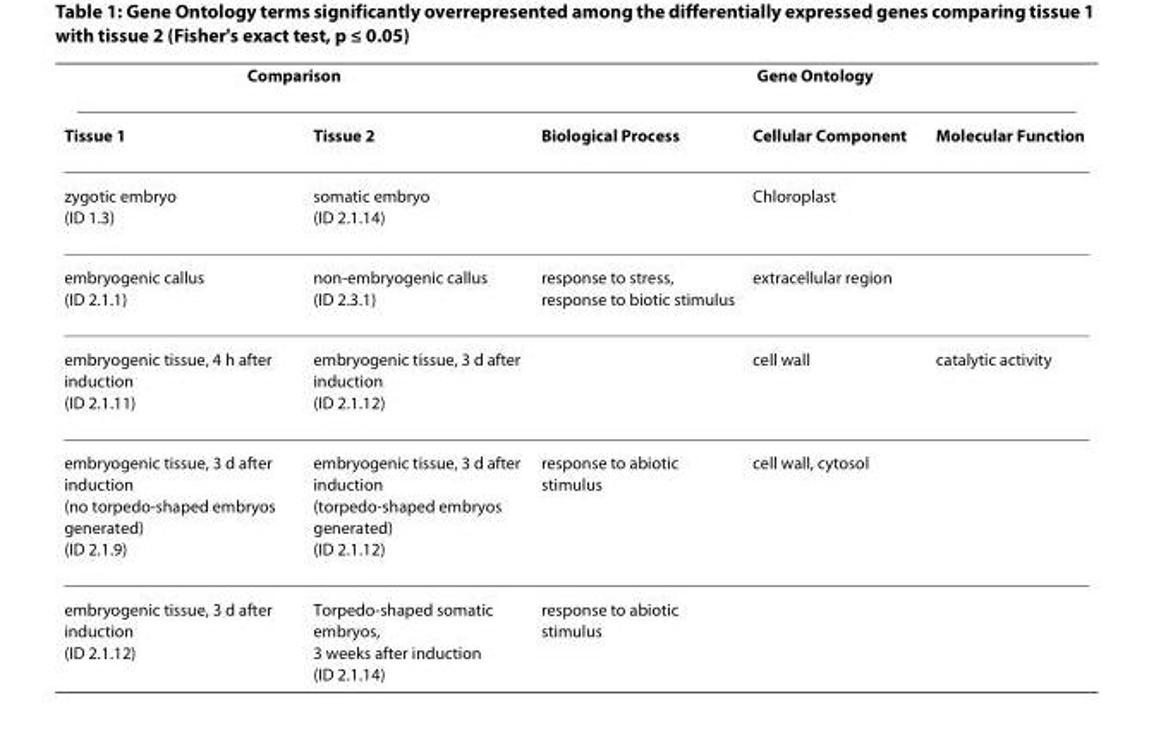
<table><thead><tr><td colspan="2">Comparison</td><td colspan="3">Gene Ontology</td></tr><tr><td>Tissue 1</td><td>Tissue 2</td><td>Biological Process</td><td>Cellular Component</td><td>Molecular Function</td></tr></thead><tbody><tr><td>zygotic embryo (ID 1.3)</td><td>somatic embryo (ID 2.1.14)</td><td></td><td>Chloroplast</td><td></td></tr><tr><td>embryogenic callus (ID 2.1.1)</td><td>non-embryogenic callus (ID 2.3.1)</td><td>response to stress, response to biotic stimulus</td><td>extracellular region</td><td></td></tr><tr><td>embryogenic tissue, 4 h after induction (ID 2.1.11)</td><td>embryogenic tissue, 3 d after induction (ID 2.1.12)</td><td></td><td>cell wall</td><td>catalytic activity</td></tr><tr><td>embryogenic tissue, 3 d after induction (no torpedo-shaped embryos generated) (ID 2.1.9)</td><td>embryogenic tissue, 3 d after induction (torpedo-shaped embryos generated) (ID 2.1.12)</td><td>response to abiotic stimulus</td><td>cell wall, cytosol</td><td></td></tr><tr><td>embryogenic tissue, 3 d after induction (ID 2.1.12)</td><td>Torpedo-shaped somatic embryos, 3 weeks after induction (ID 2.1.14)</td><td>response to abiotic stimulus</td><td></td><td></td></tr></tbody></table>